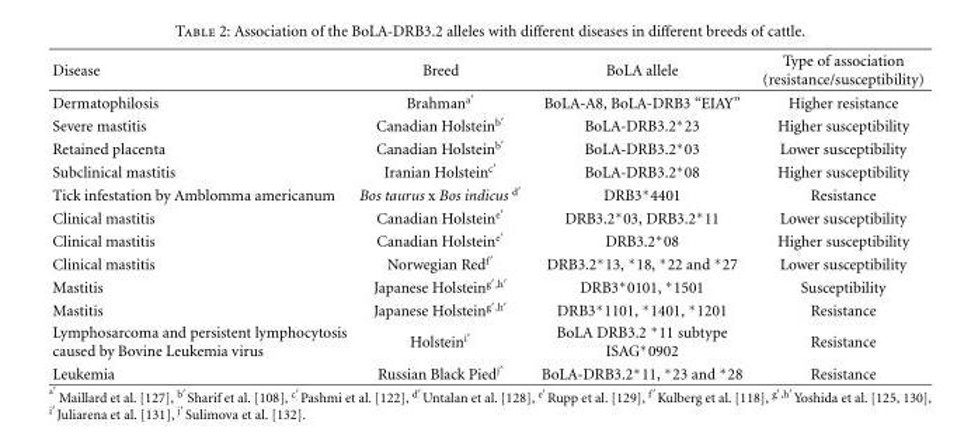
<table><thead><tr><td>Disease</td><td>Breed</td><td>BoLA allele</td><td>Type of association (resistance/susceptibility)</td></tr></thead><tbody><tr><td>Dermatophilosis</td><td>Brahman<sup>a′</sup></td><td>BoLA-A8, BoLA-DRB3 “EIAY”</td><td>Higher resistance</td></tr><tr><td>Severe mastitis</td><td>Canadian Holstein<sup>b′</sup></td><td>BoLA-DRB3.2∗23</td><td>Higher susceptibility</td></tr><tr><td>Retained placenta</td><td>Canadian Holstein<sup>b′</sup></td><td>BoLA-DRB3.2∗03</td><td>Lower susceptibility</td></tr><tr><td>Subclinical mastitis</td><td>Iranian Holstein<sup>c′</sup></td><td>BoLA-DRB3.2∗08</td><td>Higher susceptibility</td></tr><tr><td>Tick infestation by Amblomma americanum</td><td>Bos taurus x Bos indicus <sup>d′</sup></td><td>DRB3∗4401</td><td>Resistance</td></tr><tr><td>Clinical mastitis</td><td>Canadian Holstein<sup>e′</sup></td><td>DRB3.2∗03, DRB3.2∗11</td><td>Lower susceptibility</td></tr><tr><td>Clinical mastitis</td><td>Canadian Holstein<sup>e′</sup></td><td>DRB3.2∗08</td><td>Higher susceptibility</td></tr><tr><td>Clinical mastitis</td><td>Norwegian Red<sup>f′</sup></td><td>DRB3.2∗13, ∗18, ∗22 and ∗27</td><td>Lower susceptibility</td></tr><tr><td>Mastitis</td><td>Japanese Holstein<sup>g′,h′</sup></td><td>DRB3∗0101, ∗1501</td><td>Susceptibility</td></tr><tr><td>Mastitis</td><td>Japanese Holstein<sup>g′,h′</sup></td><td>DRB3∗1101, ∗1401, ∗1201</td><td>Resistance</td></tr><tr><td>Lymphosarcoma and persistent lymphocytosis caused by Bovine Leukemia virus</td><td>Holstein<sup>i′</sup></td><td>BoLA DRB3.2 ∗11 subtype ISAG∗0902</td><td>Resistance</td></tr><tr><td>Leukemia</td><td>Russian Black Pied<sup>j′</sup></td><td>BoLA-DRB3.2∗11, ∗23 and ∗28</td><td>Resistance</td></tr></tbody></table>